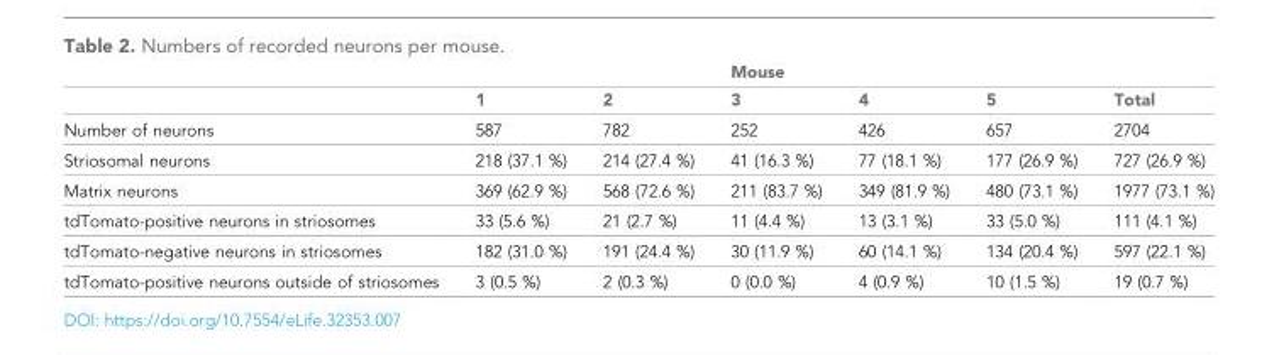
<table><thead><tr><td rowspan="2"></td><td rowspan="2">1</td><td rowspan="2">2</td><td rowspan="2">Mouse 3</td><td rowspan="2">4</td><td rowspan="2">5</td><td rowspan="2">Total</td></tr><tr></tr></thead><tbody><tr><td>Number of neurons</td><td>587</td><td>782</td><td>252</td><td>426</td><td>657</td><td>2704</td></tr><tr><td>Striosomal neurons</td><td>218 (37.1 %)</td><td>214 (27.4 %)</td><td>41 (16.3 %)</td><td>77 (18.1 %)</td><td>177 (26.9 %)</td><td>727 (26.9 %)</td></tr><tr><td>Matrix neurons</td><td>369 (62.9 %)</td><td>568 (72.6 %)</td><td>211 (83.7 %)</td><td>349 (81.9 %)</td><td>480 (73.1 %)</td><td>1977 (73.1 %)</td></tr><tr><td>tdTomato-positive neurons in striosomes</td><td>33 (5.6 %)</td><td>21 (2.7 %)</td><td>11 (4.4 %)</td><td>13 (3.1 %)</td><td>33 (5.0 %)</td><td>111 (4.1 %)</td></tr><tr><td>tdTomato-negative neurons in striosomes</td><td>182 (31.0 %)</td><td>191 (24.4 %)</td><td>30 (11.9 %)</td><td>60 (14.1 %)</td><td>134 (20.4 %)</td><td>597 (22.1 %)</td></tr><tr><td>tdTomato-positive neurons outside of striosomes</td><td>3 (0.5 %)</td><td>2 (0.3 %)</td><td>0 (0.0 %)</td><td>4 (0.9 %)</td><td>10 (1.5 %)</td><td>19 (0.7 %)</td></tr></tbody></table>